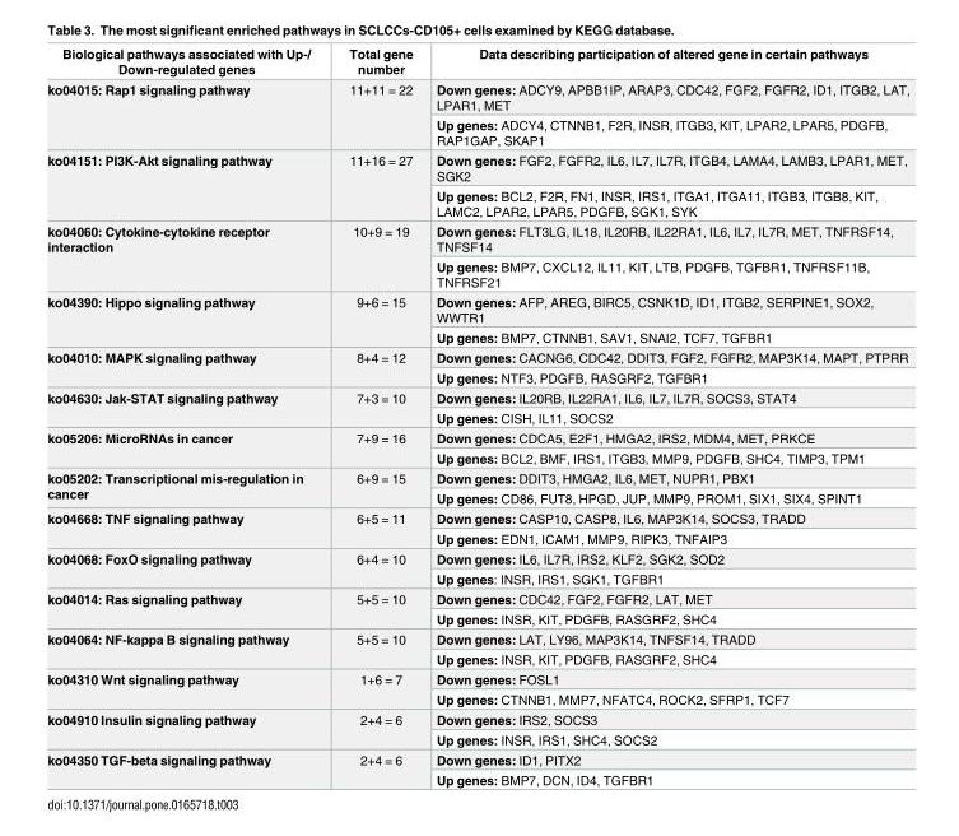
<table><thead><tr><td>Biological pathways associated with Up-/ Down-regulated genes</td><td>Total gene number</td><td>Data describing participation of altered gene in certain pathways</td></tr></thead><tbody><tr><td rowspan="2">ko04015: Rap1 signaling pathway</td><td rowspan="2">11+11 = 22</td><td>Down genes: ADCY9, APBB1IP, ARAP3, CDC42, FGF2, FGFR2, ID1, ITGB2, LAT, LPAR1, MET</td></tr><tr><td>Up genes: ADCY4, CTNNB1, F2R, INSR, ITGB3, KIT, LPAR2, LPAR5, PDGFB, RAP1GAP, SKAP1</td></tr><tr><td rowspan="2">ko04151: PI3K-Akt signaling pathway</td><td rowspan="2">11+16 = 27</td><td>Down genes: FGF2, FGFR2, IL6, IL7, IL7R, ITGB4, LAMA4, LAMB3, LPAR1, MET, SGK2</td></tr><tr><td>Up genes: BCL2, F2R, FN1, INSR, IRS1, ITGA1, ITGA11, ITGB3, ITGB8, KIT, LAMC2, LPAR2, LPAR5, PDGFB, SGK1, SYK</td></tr><tr><td rowspan="2">ko04060: Cytokine-cytokine receptor interaction</td><td rowspan="2">10+9 = 19</td><td>Down genes: FLT3LG, IL18, IL20RB, IL22RA1, IL6, IL7, IL7R, MET, TNFRSF14, TNFSF14</td></tr><tr><td>Up genes: BMP7, CXCL12, IL11, KIT, LTB, PDGFB, TGFBR1, TNFRSF11B, TNFRSF21</td></tr><tr><td rowspan="2">ko04390: Hippo signaling pathway</td><td rowspan="2">9+6 = 15</td><td>Down genes: AFP, AREG, BIRC5, CSNK1D, ID1, ITGB2, SERPINE1, SOX2, WWTR1</td></tr><tr><td>Up genes: BMP7, CTNNB1, SAV1, SNAI2, TCF7, TGFBR1</td></tr><tr><td rowspan="2">ko04010: MAPK signaling pathway</td><td rowspan="2">8+4 = 12</td><td>Down genes: CACNG6, CDC42, DDIT3, FGF2, FGFR2, MAP3K14, MAPT, PTPRR</td></tr><tr><td>Up genes: NTF3, PDGFB, RASGRF2, TGFBR1</td></tr><tr><td rowspan="2">ko04630: Jak-STAT signaling pathway</td><td rowspan="2">7+3 = 10</td><td>Down genes: IL20RB, IL22RA1, IL6, IL7, IL7R, SOCS3, STAT4</td></tr><tr><td>Up genes: CISH, IL11, SOCS2</td></tr><tr><td rowspan="2">ko05206: MicroRNAs in cancer</td><td rowspan="2">7+9 = 16</td><td>Down genes: CDCA5, E2F1, HMGA2, IRS2, MDM4, MET, PRKCE</td></tr><tr><td>Up genes: BCL2, BMF, IRS1, ITGB3, MMP9, PDGFB, SHC4, TIMP3, TPM1</td></tr><tr><td rowspan="2">ko05202: Transcriptional mis-regulation in cancer</td><td rowspan="2">6+9 = 15</td><td>Down genes: DDIT3, HMGA2, IL6, MET, NUPR1, PBX1</td></tr><tr><td>Up genes: CD86, FUT8, HPGD, JUP, MMP9, PROM1, SIX1, SIX4, SPINT1</td></tr><tr><td rowspan="2">ko04668: TNF signaling pathway</td><td rowspan="2">6+5 = 11</td><td>Down genes: CASP10, CASP8, IL6, MAP3K14, SOCS3, TRADD</td></tr><tr><td>Up genes: EDN1, ICAM1, MMP9, RIPK3, TNFAIP3</td></tr><tr><td rowspan="2">ko04068: FoxO signaling pathway</td><td rowspan="2">6+4 = 10</td><td>Down genes: IL6, IL7R, IRS2, KLF2, SGK2, SOD2</td></tr><tr><td>Up genes: INSR, IRS1, SGK1, TGFBR1</td></tr><tr><td rowspan="2">ko04014: Ras signaling pathway</td><td rowspan="2">5+5 = 10</td><td>Down genes: CDC42, FGF2, FGFR2, LAT, MET</td></tr><tr><td>Up genes: INSR, KIT, PDGFB, RASGRF2, SHC4</td></tr><tr><td rowspan="2">ko04064: NF-kappa B signaling pathway</td><td rowspan="2">5+5 = 10</td><td>Down genes: LAT, LY96, MAP3K14, TNFSF14, TRADD</td></tr><tr><td>Up genes: INSR, KIT, PDGFB, RASGRF2, SHC4</td></tr><tr><td rowspan="2">ko04310 Wnt signaling pathway</td><td rowspan="2">1+6 = 7</td><td>Down genes: FOSL1</td></tr><tr><td>Up genes: CTNNB1, MMP7, NFATC4, ROCK2, SFRP1, TCF7</td></tr><tr><td rowspan="2">ko04910 Insulin signaling pathway</td><td rowspan="2">2+4 = 6</td><td>Down genes: IRS2, SOCS3</td></tr><tr><td>Up genes: INSR, IRS1, SHC4, SOCS2</td></tr><tr><td rowspan="2">ko04350 TGF-beta signaling pathway</td><td rowspan="2">2+4 = 6</td><td>Down genes: ID1, PITX2</td></tr><tr><td>Up genes: BMP7, DCN, ID4, TGFBR1</td></tr></tbody></table>